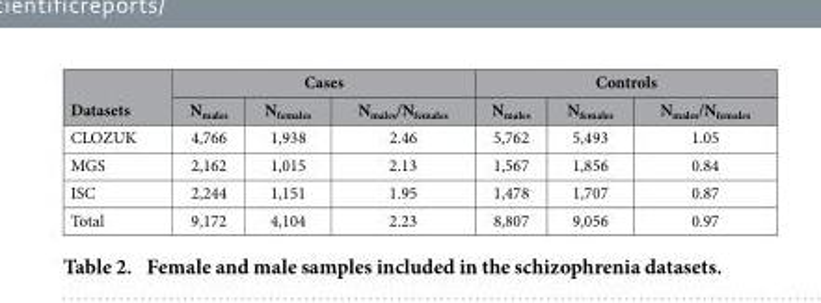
<table><thead><tr><td rowspan="2">Datasets</td><td colspan="3">Cases</td><td colspan="3">Controls</td></tr><tr><td>N<sub>males</sub></td><td>N<sub>females</sub></td><td>N<sub>males</sub>/N<sub>females</sub></td><td>N<sub>males</sub></td><td>N<sub>females</sub></td><td>N<sub>males</sub>/N<sub>females</sub></td></tr></thead><tbody><tr><td>CLOZUK</td><td>4,766</td><td>1,938</td><td>2.46</td><td>5,762</td><td>5,493</td><td>1.05</td></tr><tr><td>MGS</td><td>2,162</td><td>1,015</td><td>2.13</td><td>1,567</td><td>1,856</td><td>0.84</td></tr><tr><td>ISC</td><td>2,244</td><td>1,151</td><td>1.95</td><td>1,478</td><td>1,707</td><td>0.87</td></tr><tr><td>Total</td><td>9,172</td><td>4,104</td><td>2.23</td><td>8,807</td><td>9,056</td><td>0.97</td></tr></tbody></table>